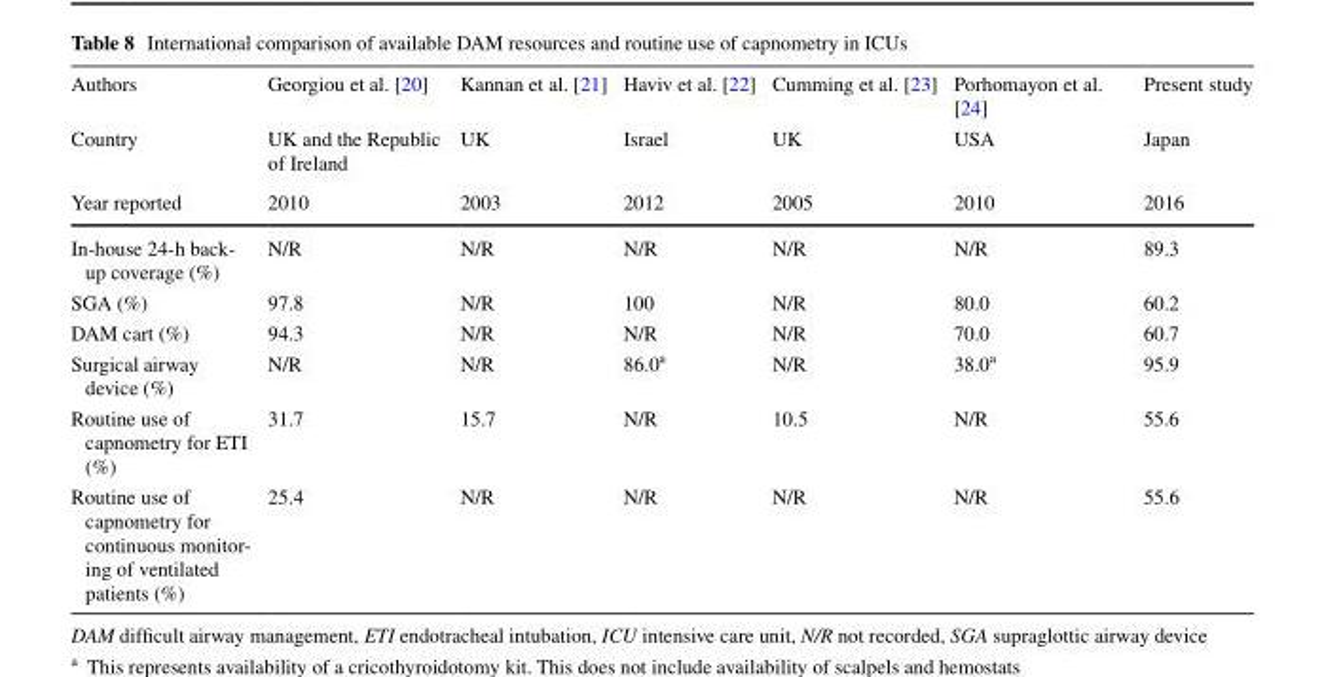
<table><thead><tr><td rowspan="3">Authors Country Year reported</td><td rowspan="3">Georgiou et al. [20] UK and the Republic of Ireland 2010</td><td rowspan="3">Kannan et al. [21] UK 2003</td><td rowspan="3">Haviv et al. [22] Israel 2012</td><td rowspan="3">Cumming et al. [23] UK 2005</td><td rowspan="3">Porhomayon et al. [24] USA 2010</td><td rowspan="3">Present study Japan 2016</td></tr><tr></tr><tr></tr></thead><tbody><tr><td>In-house 24-h back- up coverage (%)</td><td>N/R</td><td>N/R</td><td>N/R</td><td>N/R</td><td>N/R</td><td>89.3</td></tr><tr><td>SGA (%)</td><td>97.8</td><td>N/R</td><td>100</td><td>N/R</td><td>80.0</td><td>60.2</td></tr><tr><td>DAM cart (%)</td><td>94.3</td><td>N/R</td><td>N/R</td><td>N/R</td><td>70.0</td><td>60.7</td></tr><tr><td>Surgical airway device (%)</td><td>N/R</td><td>N/R</td><td>86.0<sup>a</sup></td><td>N/R</td><td>38.0<sup>a</sup></td><td>95.9</td></tr><tr><td>Routine use of capnometry for ETI (%)</td><td>31.7</td><td>15.7</td><td>N/R</td><td>10.5</td><td>N/R</td><td>55.6</td></tr><tr><td>Routine use of capnometry for continuous monitor- ing of ventilated patients (%)</td><td>25.4</td><td>N/R</td><td>N/R</td><td>N/R</td><td>N/R</td><td>55.6</td></tr></tbody></table>